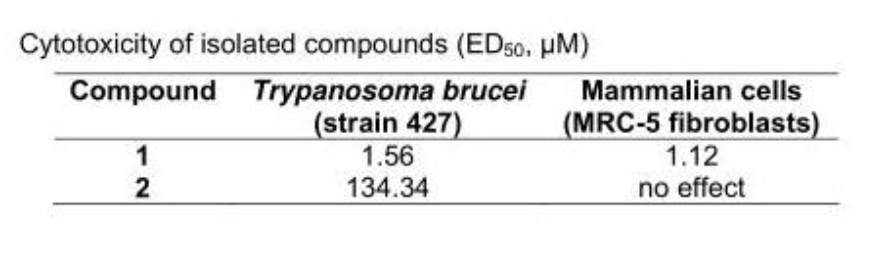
<table><thead><tr><td>Compound</td><td>Trypanosoma brucei (strain 427)</td><td>Mammalian cells (MRC-5 fibroblasts)</td></tr></thead><tbody><tr><td>1</td><td>1.56</td><td>1.12</td></tr><tr><td>2</td><td>134.34</td><td>no effect</td></tr></tbody></table>